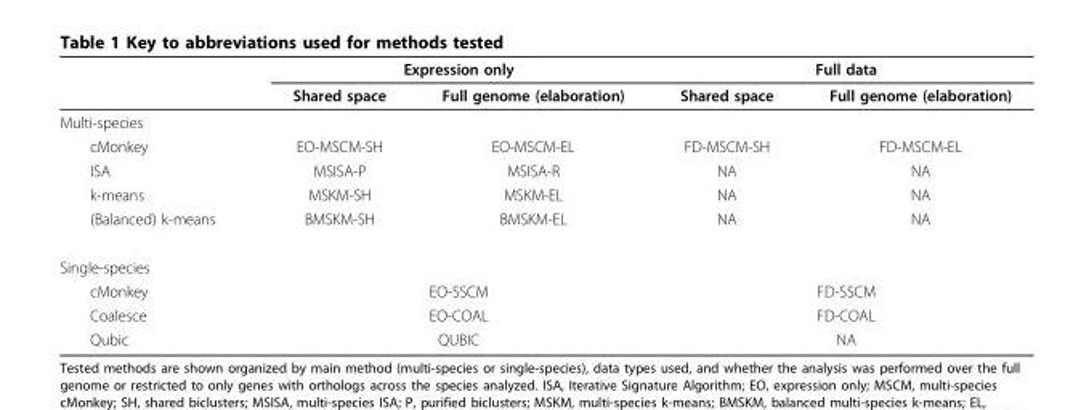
<table><thead><tr><td rowspan="2"></td><td colspan="2">Expression only</td><td colspan="2">Full data</td></tr><tr><td>Shared space</td><td>Full genome (elaboration)</td><td>Shared space</td><td>Full genome (elaboration)</td></tr></thead><tbody><tr><td colspan="5">Multi-species</td></tr><tr><td>cMonkey</td><td>EO-MSCM-SH</td><td>EO-MSCM-EL</td><td>FD-MSCM-SH</td><td>FD-MSCM-EL</td></tr><tr><td>ISA</td><td>MSISA-P</td><td>MSISA-R</td><td>NA</td><td>NA</td></tr><tr><td>k-means</td><td>MSKM-SH</td><td>MSKM-EL</td><td>NA</td><td>NA</td></tr><tr><td>(Balanced) k-means</td><td>BMSKM-SH</td><td>BMSKM-EL</td><td>NA</td><td>NA</td></tr><tr><td colspan="5">Single-species</td></tr><tr><td>cMonkey</td><td colspan="2">EO-SSCM</td><td colspan="2">FD-SSCM</td></tr><tr><td>Coalesce</td><td colspan="2">EO-COAL</td><td colspan="2">FD-COAL</td></tr><tr><td>Qubic</td><td colspan="2">QUBIC</td><td colspan="2">NA</td></tr></tbody></table>